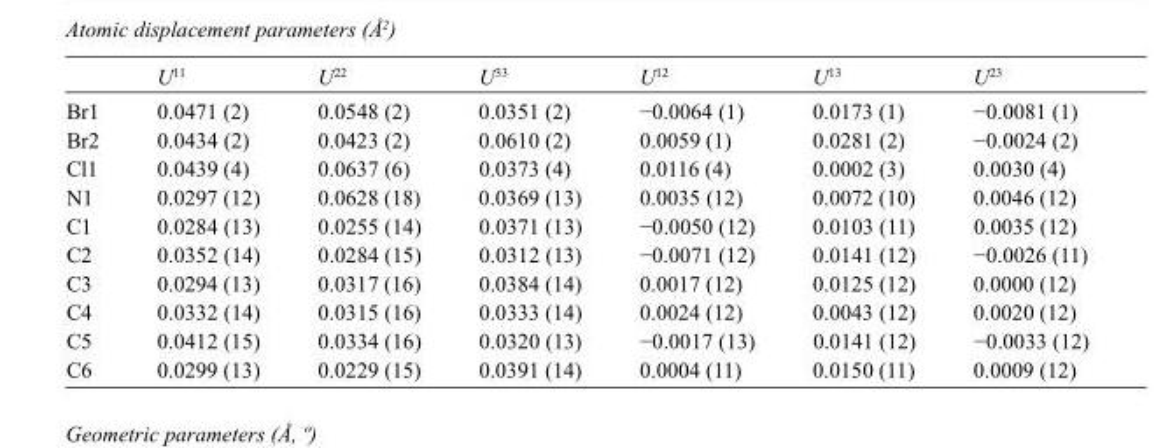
<table><thead><tr><td></td><td>U<sup>11</sup></td><td>U<sup>22</sup></td><td>U<sup>33</sup></td><td>U<sup>12</sup></td><td>U<sup>13</sup></td><td>U<sup>23</sup></td></tr></thead><tbody><tr><td>Br1</td><td>0.0471 (2)</td><td>0.0548 (2)</td><td>0.0351 (2)</td><td>−0.0064 (1)</td><td>0.0173 (1)</td><td>−0.0081 (1)</td></tr><tr><td>Br2</td><td>0.0434 (2)</td><td>0.0423 (2)</td><td>0.0610 (2)</td><td>0.0059 (1)</td><td>0.0281 (2)</td><td>−0.0024 (2)</td></tr><tr><td>Cl1</td><td>0.0439 (4)</td><td>0.0637 (6)</td><td>0.0373 (4)</td><td>0.0116 (4)</td><td>0.0002 (3)</td><td>0.0030 (4)</td></tr><tr><td>N1</td><td>0.0297 (12)</td><td>0.0628 (18)</td><td>0.0369 (13)</td><td>0.0035 (12)</td><td>0.0072 (10)</td><td>0.0046 (12)</td></tr><tr><td>C1</td><td>0.0284 (13)</td><td>0.0255 (14)</td><td>0.0371 (13)</td><td>−0.0050 (12)</td><td>0.0103 (11)</td><td>0.0035 (12)</td></tr><tr><td>C2</td><td>0.0352 (14)</td><td>0.0284 (15)</td><td>0.0312 (13)</td><td>−0.0071 (12)</td><td>0.0141 (12)</td><td>−0.0026 (11)</td></tr><tr><td>C3</td><td>0.0294 (13)</td><td>0.0317 (16)</td><td>0.0384 (14)</td><td>0.0017 (12)</td><td>0.0125 (12)</td><td>0.0000 (12)</td></tr><tr><td>C4</td><td>0.0332 (14)</td><td>0.0315 (16)</td><td>0.0333 (14)</td><td>0.0024 (12)</td><td>0.0043 (12)</td><td>0.0020 (12)</td></tr><tr><td>C5</td><td>0.0412 (15)</td><td>0.0334 (16)</td><td>0.0320 (13)</td><td>−0.0017 (13)</td><td>0.0141 (12)</td><td>−0.0033 (12)</td></tr><tr><td>C6</td><td>0.0299 (13)</td><td>0.0229 (15)</td><td>0.0391 (14)</td><td>0.0004 (11)</td><td>0.0150 (11)</td><td>0.0009 (12)</td></tr></tbody></table>